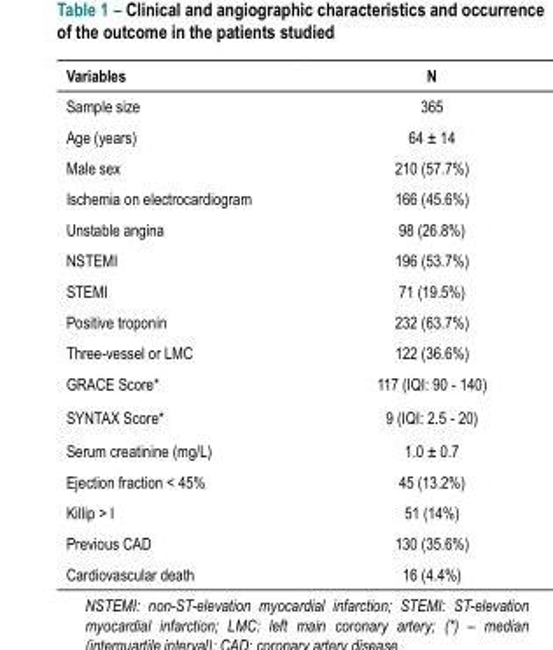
<table><thead><tr><td>Variables</td><td>N</td></tr></thead><tbody><tr><td>Sample size</td><td>365</td></tr><tr><td>Age (years)</td><td>64 ± 14</td></tr><tr><td>Male sex</td><td>210 (57.7%)</td></tr><tr><td>Ischemia on electrocardiogram</td><td>166 (45.6%)</td></tr><tr><td>Unstable angina</td><td>98 (26.8%)</td></tr><tr><td>NSTEMI</td><td>196 (53.7%)</td></tr><tr><td>STEMI</td><td>71 (19.5%)</td></tr><tr><td>Positive troponin</td><td>232 (63.7%)</td></tr><tr><td>Three-vessel or LMC</td><td>122 (36.6%)</td></tr><tr><td>GRACE Score*</td><td>117 (IQI: 90 - 140)</td></tr><tr><td>SYNTAX Score*</td><td>9 (IQI: 2.5 - 20)</td></tr><tr><td>Serum creatinine (mg/L)</td><td>1.0 ± 0.7</td></tr><tr><td>Ejection fraction &lt; 45%</td><td>45 (13.2%)</td></tr><tr><td>Killip &gt; I</td><td>51 (14%)</td></tr><tr><td>Previous CAD</td><td>130 (35.6%)</td></tr><tr><td>Cardiovascular death</td><td>16 (4.4%)</td></tr></tbody></table>